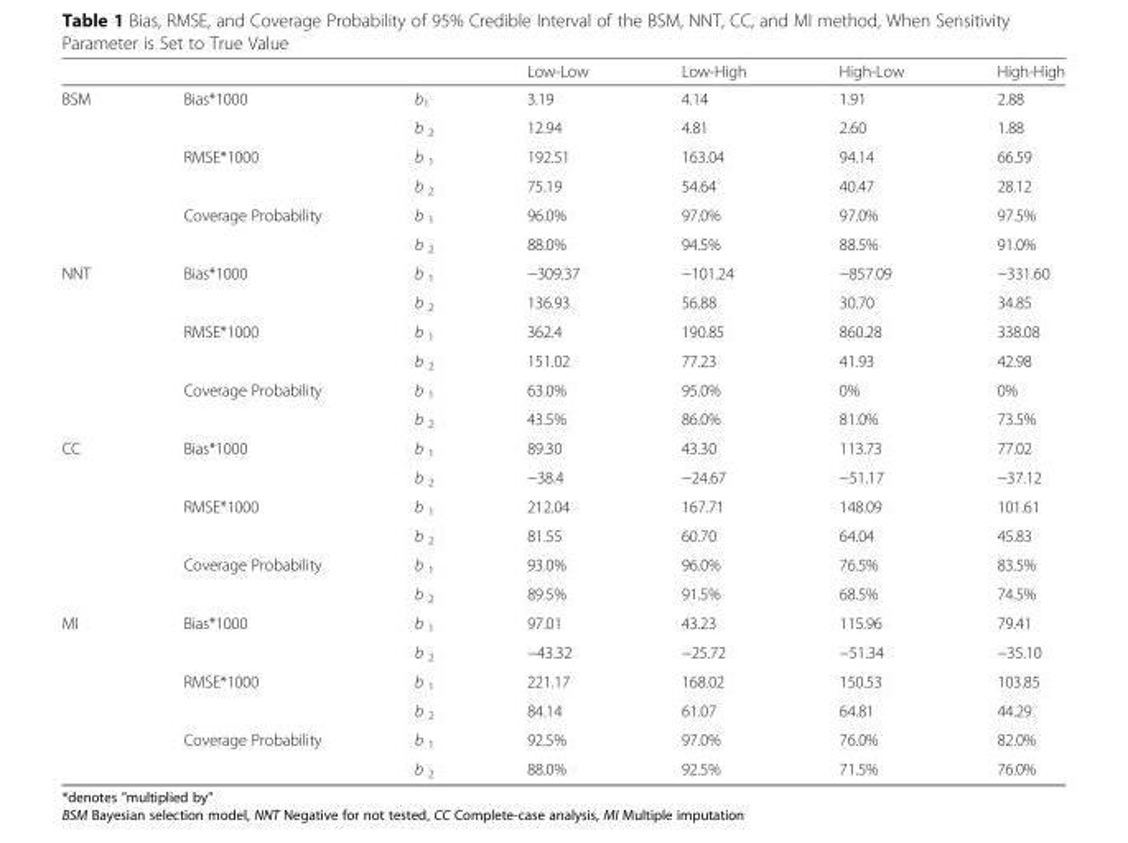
<table><thead><tr><td></td><td></td><td></td><td>Low-Low</td><td>Low-High</td><td>High-Low</td><td>High-High</td></tr></thead><tbody><tr><td rowspan="6">BSM</td><td rowspan="2">Bias*1000</td><td>b<sub>1</sub></td><td>3.19</td><td>4.14</td><td>1.91</td><td>2.88</td></tr><tr><td>b <sub>2</sub></td><td>12.94</td><td>4.81</td><td>2.60</td><td>1.88</td></tr><tr><td rowspan="2">RMSE*1000</td><td>b <sub>1</sub></td><td>192.51</td><td>163.04</td><td>94.14</td><td>66.59</td></tr><tr><td>b <sub>2</sub></td><td>75.19</td><td>54.64</td><td>40.47</td><td>28.12</td></tr><tr><td rowspan="2">Coverage Probability</td><td>b <sub>1</sub></td><td>96.0%</td><td>97.0%</td><td>97.0%</td><td>97.5%</td></tr><tr><td>b <sub>2</sub></td><td>88.0%</td><td>94.5%</td><td>88.5%</td><td>91.0%</td></tr><tr><td rowspan="6">NNT</td><td rowspan="2">Bias*1000</td><td>b <sub>1</sub></td><td>−309.37</td><td>−101.24</td><td>−857.09</td><td>−331.60</td></tr><tr><td>b <sub>2</sub></td><td>136.93</td><td>56.88</td><td>30.70</td><td>34.85</td></tr><tr><td rowspan="2">RMSE*1000</td><td>b <sub>1</sub></td><td>362.4</td><td>190.85</td><td>860.28</td><td>338.08</td></tr><tr><td>b <sub>2</sub></td><td>151.02</td><td>77.23</td><td>41.93</td><td>42.98</td></tr><tr><td rowspan="2">Coverage Probability</td><td>b <sub>1</sub></td><td>63.0%</td><td>95.0%</td><td>0%</td><td>0%</td></tr><tr><td>b <sub>2</sub></td><td>43.5%</td><td>86.0%</td><td>81.0%</td><td>73.5%</td></tr><tr><td rowspan="6">CC</td><td rowspan="2">Bias*1000</td><td>b <sub>1</sub></td><td>89.30</td><td>43.30</td><td>113.73</td><td>77.02</td></tr><tr><td>b <sub>2</sub></td><td>−38.4</td><td>−24.67</td><td>−51.17</td><td>−37.12</td></tr><tr><td rowspan="2">RMSE*1000</td><td>b <sub>1</sub></td><td>212.04</td><td>167.71</td><td>148.09</td><td>101.61</td></tr><tr><td>b <sub>2</sub></td><td>81.55</td><td>60.70</td><td>64.04</td><td>45.83</td></tr><tr><td rowspan="2">Coverage Probability</td><td>b <sub>1</sub></td><td>93.0%</td><td>96.0%</td><td>76.5%</td><td>83.5%</td></tr><tr><td>b <sub>2</sub></td><td>89.5%</td><td>91.5%</td><td>68.5%</td><td>74.5%</td></tr><tr><td rowspan="6">MI</td><td rowspan="2">Bias*1000</td><td>b <sub>1</sub></td><td>97.01</td><td>43.23</td><td>115.96</td><td>79.41</td></tr><tr><td>b <sub>2</sub></td><td>−43.32</td><td>−25.72</td><td>−51.34</td><td>−35.10</td></tr><tr><td rowspan="2">RMSE*1000</td><td>b <sub>1</sub></td><td>221.17</td><td>168.02</td><td>150.53</td><td>103.85</td></tr><tr><td>b <sub>2</sub></td><td>84.14</td><td>61.07</td><td>64.81</td><td>44.29</td></tr><tr><td rowspan="2">Coverage Probability</td><td>b <sub>1</sub></td><td>92.5%</td><td>97.0%</td><td>76.0%</td><td>82.0%</td></tr><tr><td>b <sub>2</sub></td><td>88.0%</td><td>92.5%</td><td>71.5%</td><td>76.0%</td></tr></tbody></table>